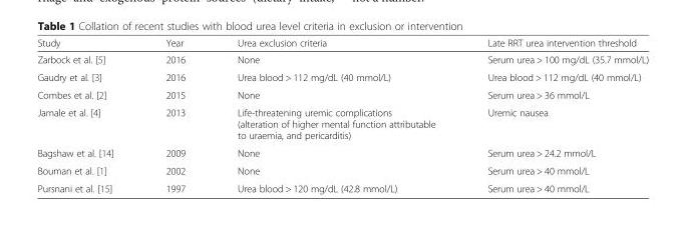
<table><thead><tr><td>Study</td><td>Year</td><td>Urea exclusion criteria</td><td>Late RRT urea intervention threshold</td></tr></thead><tbody><tr><td>Zarbock et al. [5]</td><td>2016</td><td>None</td><td>Serum urea &gt; 100 mg/dL (35.7 mmol/L)</td></tr><tr><td>Gaudry et al. [3]</td><td>2016</td><td>Urea blood &gt; 112 mg/dL (40 mmol/L)</td><td>Urea blood &gt; 112 mg/dL (40 mmol/L)</td></tr><tr><td>Combes et al. [2]</td><td>2015</td><td>None</td><td>Serum urea &gt; 36 mmol/L</td></tr><tr><td>Jamale et al. [4]</td><td>2013</td><td>Life-threatening uremic complications (alteration of higher mental function attributable to uraemia, and pericarditis)</td><td>Uremic nausea</td></tr><tr><td>Bagshaw et al. [14]</td><td>2009</td><td>None</td><td>Serum urea &gt; 24.2 mmol/L</td></tr><tr><td>Bouman et al. [1]</td><td>2002</td><td>None</td><td>Serum urea &gt; 40 mmol/L</td></tr><tr><td>Pursnani et al. [15]</td><td>1997</td><td>Urea blood &gt; 120 mg/dL (42.8 mmol/L)</td><td>Serum urea &gt; 40 mmol/L</td></tr></tbody></table>